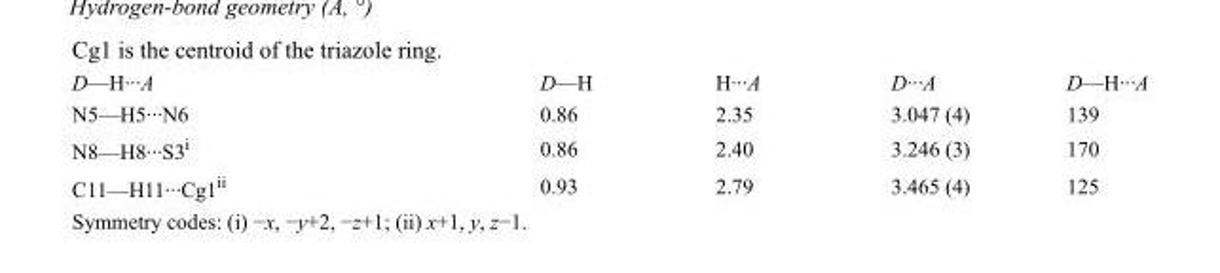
<table><tbody><tr><td>D—H···A</td><td>D—H</td><td>H···A</td><td>D···A</td><td>D—H···A</td></tr><tr><td>N5—H5···N6</td><td>0.86</td><td>2.35</td><td>3.047 (4)</td><td>139</td></tr><tr><td>N8—H8···S3<sup>i</sup></td><td>0.86</td><td>2.40</td><td>3.246 (3)</td><td>170</td></tr><tr><td>C11—H11···Cg1<sup>ii</sup></td><td>0.93</td><td>2.79</td><td>3.465 (4)</td><td>125</td></tr></tbody></table>